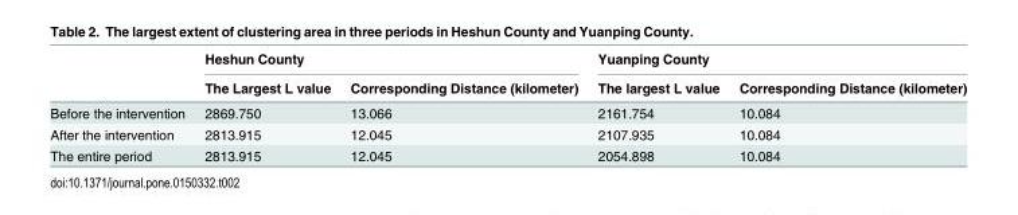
<table><thead><tr><td rowspan="2"></td><td colspan="2">Heshun County</td><td colspan="2">Yuanping County</td></tr><tr><td>The Largest L value</td><td>Corresponding Distance (kilometer)</td><td>The largest L value</td><td>Corresponding Distance (kilometer)</td></tr></thead><tbody><tr><td>Before the intervention</td><td>2869.750</td><td>13.066</td><td>2161.754</td><td>10.084</td></tr><tr><td>After the intervention</td><td>2813.915</td><td>12.045</td><td>2107.935</td><td>10.084</td></tr><tr><td>The entire period</td><td>2813.915</td><td>12.045</td><td>2054.898</td><td>10.084</td></tr></tbody></table>